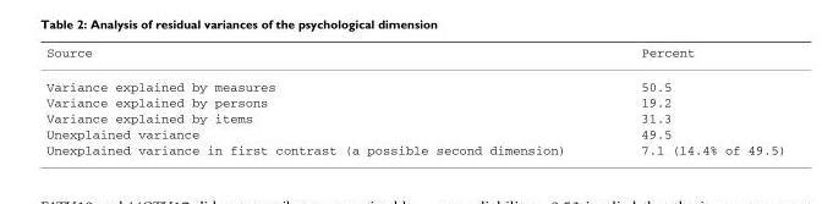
<table><thead><tr><td>Source</td><td>Percent</td></tr></thead><tbody><tr><td>Variance explained by measures</td><td>50.5</td></tr><tr><td>Variance explained by persons</td><td>19.2</td></tr><tr><td>Variance explained by items</td><td>31.3</td></tr><tr><td>Unexplained variance</td><td>49.5</td></tr><tr><td>Unexplained variance in first contrast (a possible second dimension)</td><td>7.1 (14.4% of 49.5)</td></tr></tbody></table>